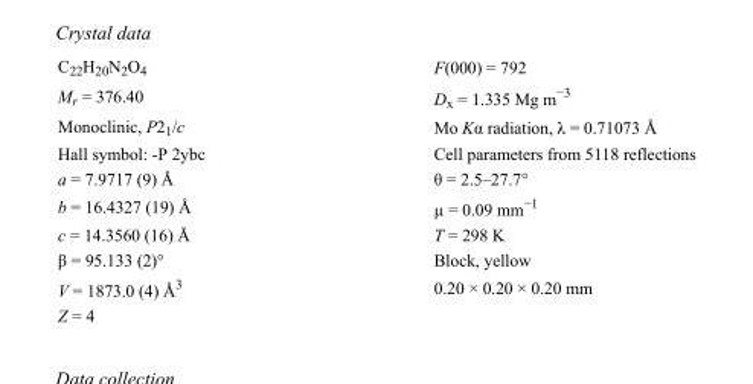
<table><tbody><tr><td>C<sub>22</sub>H<sub>20</sub>N<sub>2</sub>O<sub>4</sub></td><td>F(000) = 792</td></tr><tr><td>M<sub>r</sub> = 376.40</td><td>D<sub>x</sub> = 1.335 Mg m<sup>−3</sup></td></tr><tr><td>Monoclinic, P2<sub>1</sub>/c</td><td>Mo Kα radiation, λ = 0.71073 Å</td></tr><tr><td>Hall symbol: -P 2ybc</td><td>Cell parameters from 5118 reflections</td></tr><tr><td>a = 7.9717 (9) Å</td><td>θ = 2.5–27.7°</td></tr><tr><td>b = 16.4327 (19) Å</td><td>µ = 0.09 mm<sup>−1</sup></td></tr><tr><td>c = 14.3560 (16) Å</td><td>T = 298 K</td></tr><tr><td>β = 95.133 (2)°</td><td>Block, yellow</td></tr><tr><td>V = 1873.0 (4) Å<sup>3</sup></td><td>0.20 × 0.20 × 0.20 mm</td></tr><tr><td>Z = 4</td><td></td></tr></tbody></table>